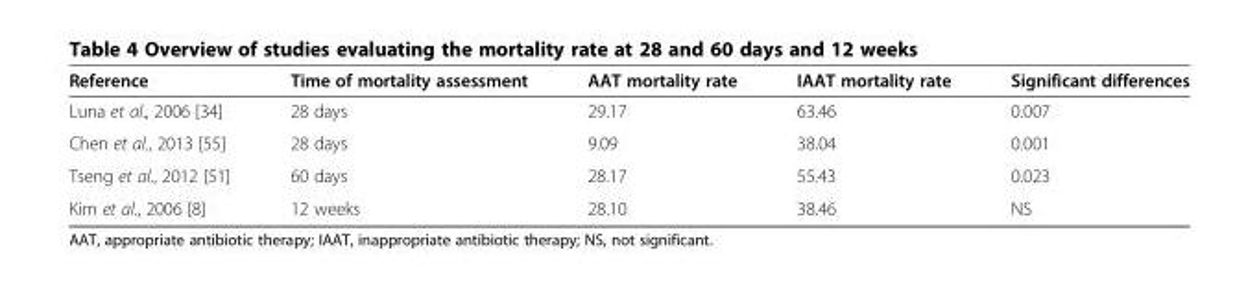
<table><thead><tr><td>Reference</td><td>Time of mortality assessment</td><td>AAT mortality rate</td><td>IAAT mortality rate</td><td>Significant differences</td></tr></thead><tbody><tr><td>Luna et al., 2006 [34]</td><td>28 days</td><td>29.17</td><td>63.46</td><td>0.007</td></tr><tr><td>Chen et al., 2013 [55]</td><td>28 days</td><td>9.09</td><td>38.04</td><td>0.001</td></tr><tr><td>Tseng et al., 2012 [51]</td><td>60 days</td><td>28.17</td><td>55.43</td><td>0.023</td></tr><tr><td>Kim et al., 2006 [8]</td><td>12 weeks</td><td>28.10</td><td>38.46</td><td>NS</td></tr></tbody></table>